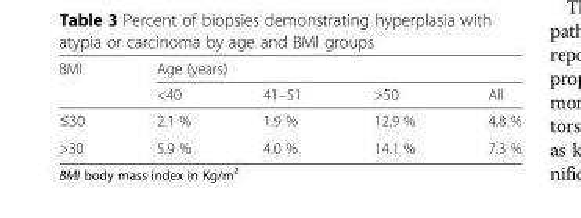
<table><thead><tr><td rowspan="2">BMI</td><td colspan="4">Age (years)</td></tr><tr><td>&lt;40</td><td>41–51</td><td>&gt;50</td><td>All</td></tr></thead><tbody><tr><td>≤30</td><td>2.1 %</td><td>1.9 %</td><td>12.9 %</td><td>4.8 %</td></tr><tr><td>&gt;30</td><td>5.9 %</td><td>4.0 %</td><td>14.1 %</td><td>7.3 %</td></tr></tbody></table>